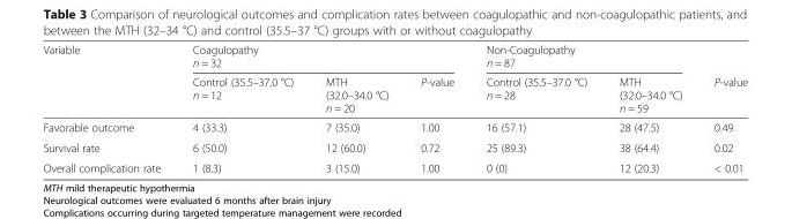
<table><thead><tr><td rowspan="2">Variable</td><td colspan="3">Coagulopathy n = 32</td><td colspan="2">Non-Coagulopathy n = 87</td><td rowspan="2">P-value</td></tr><tr><td>Control (35.5–37.0 °C) n = 12</td><td>MTH (32.0–34.0 °C) n = 20</td><td>P-value</td><td>Control (35.5–37.0 °C) n = 28</td><td>MTH (32.0–34.0 °C) n = 59</td></tr></thead><tbody><tr><td>Favorable outcome</td><td>4 (33.3)</td><td>7 (35.0)</td><td>1.00</td><td>16 (57.1)</td><td>28 (47.5)</td><td>0.49</td></tr><tr><td>Survival rate</td><td>6 (50.0)</td><td>12 (60.0)</td><td>0.72</td><td>25 (89.3)</td><td>38 (64.4)</td><td>0.02</td></tr><tr><td>Overall complication rate</td><td>1 (8.3)</td><td>3 (15.0)</td><td>1.00</td><td>0 (0)</td><td>12 (20.3)</td><td>&lt; 0.01</td></tr></tbody></table>